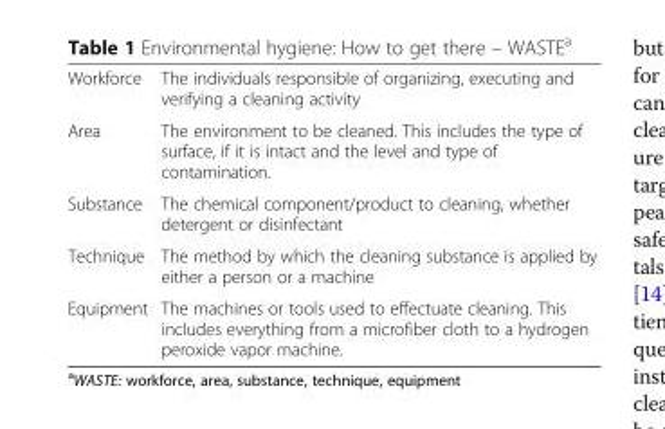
<table><tbody><tr><td>Workforce</td><td>The individuals responsible of organizing, executing and verifying a cleaning activity</td></tr><tr><td>Area</td><td>The environment to be cleaned. This includes the type of surface, if it is intact and the level and type of contamination.</td></tr><tr><td>Substance</td><td>The chemical component/product to cleaning, whether detergent or disinfectant</td></tr><tr><td>Technique</td><td>The method by which the cleaning substance is applied by either a person or a machine</td></tr><tr><td>Equipment</td><td>The machines or tools used to effectuate cleaning. This includes everything from a microfiber cloth to a hydrogen peroxide vapor machine.</td></tr></tbody></table>